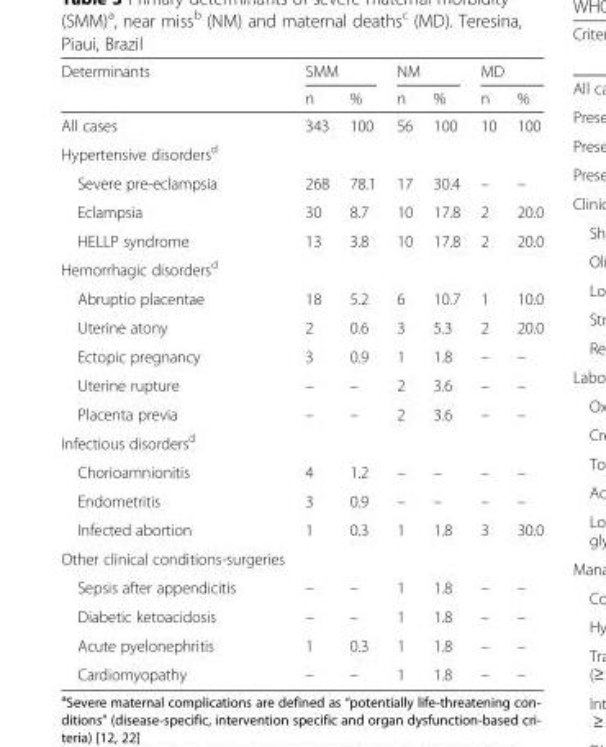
<table><thead><tr><td rowspan="2">Determinants</td><td colspan="2">SMM</td><td colspan="2">NM</td><td colspan="2">MD</td></tr><tr><td>n</td><td>%</td><td>n</td><td>%</td><td>n</td><td>%</td></tr></thead><tbody><tr><td>All cases</td><td>343</td><td>100</td><td>56</td><td>100</td><td>10</td><td>100</td></tr><tr><td colspan="7">Hypertensive disorders<sup>d</sup></td></tr><tr><td>Severe pre-eclampsia</td><td>268</td><td>78.1</td><td>17</td><td>30.4</td><td>–</td><td>–</td></tr><tr><td>Eclampsia</td><td>30</td><td>8.7</td><td>10</td><td>17.8</td><td>2</td><td>20.0</td></tr><tr><td>HELLP syndrome</td><td>13</td><td>3.8</td><td>10</td><td>17.8</td><td>2</td><td>20.0</td></tr><tr><td colspan="7">Hemorrhagic disorders<sup>d</sup></td></tr><tr><td>Abruptio placentae</td><td>18</td><td>5.2</td><td>6</td><td>10.7</td><td>1</td><td>10.0</td></tr><tr><td>Uterine atony</td><td>2</td><td>0.6</td><td>3</td><td>5.3</td><td>2</td><td>20.0</td></tr><tr><td>Ectopic pregnancy</td><td>3</td><td>0.9</td><td>1</td><td>1.8</td><td>–</td><td>–</td></tr><tr><td>Uterine rupture</td><td>–</td><td>–</td><td>2</td><td>3.6</td><td>–</td><td>–</td></tr><tr><td>Placenta previa</td><td>–</td><td>–</td><td>2</td><td>3.6</td><td>–</td><td>–</td></tr><tr><td colspan="7">Infectious disorders<sup>d</sup></td></tr><tr><td>Chorioamnionitis</td><td>4</td><td>1.2</td><td>–</td><td>–</td><td>–</td><td>–</td></tr><tr><td>Endometritis</td><td>3</td><td>0.9</td><td>–</td><td>–</td><td>–</td><td>–</td></tr><tr><td>Infected abortion</td><td>1</td><td>0.3</td><td>1</td><td>1.8</td><td>3</td><td>30.0</td></tr><tr><td colspan="7">Other clinical conditions-surgeries</td></tr><tr><td>Sepsis after appendicitis</td><td>–</td><td>–</td><td>1</td><td>1.8</td><td>–</td><td>–</td></tr><tr><td>Diabetic ketoacidosis</td><td>–</td><td>–</td><td>1</td><td>1.8</td><td>–</td><td>–</td></tr><tr><td>Acute pyelonephritis</td><td>1</td><td>0.3</td><td>1</td><td>1.8</td><td>–</td><td>–</td></tr><tr><td>Cardiomyopathy</td><td>–</td><td>–</td><td>1</td><td>1.8</td><td>–</td><td>–</td></tr></tbody></table>